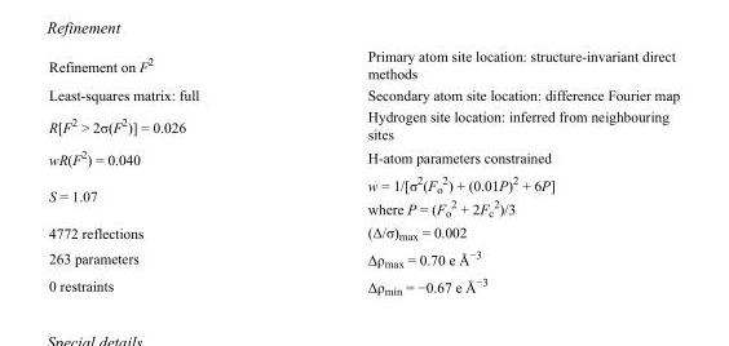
<table><tbody><tr><td>Refinement on F<sup>2</sup></td><td>Primary atom site location: structure-invariant direct methods</td></tr><tr><td>Least-squares matrix: full</td><td>Secondary atom site location: difference Fourier map</td></tr><tr><td>R[F<sup>2</sup> &gt; 2σ(F<sup>2</sup>)] = 0.026</td><td>Hydrogen site location: inferred from neighbouring sites</td></tr><tr><td>wR(F<sup>2</sup>) = 0.040</td><td>H-atom parameters constrained</td></tr><tr><td>S = 1.07</td><td>w = 1/[σ<sup>2</sup>(F<sub>o</sub> <sup>2</sup>) + (0.01P)<sup>2</sup> + 6P] where P = (F<sub>o</sub> <sup>2</sup> + 2F<sub>c</sub> <sup>2</sup>)/3</td></tr><tr><td>4772 reflections</td><td>(Δ/σ)<sub>max</sub> = 0.002</td></tr><tr><td>263 parameters</td><td>Δρ<sub>max</sub> = 0.70 e Å<sup>−3</sup></td></tr><tr><td>0 restraints</td><td>Δρ<sub>min</sub> = −0.67 e Å<sup>−3</sup></td></tr></tbody></table>